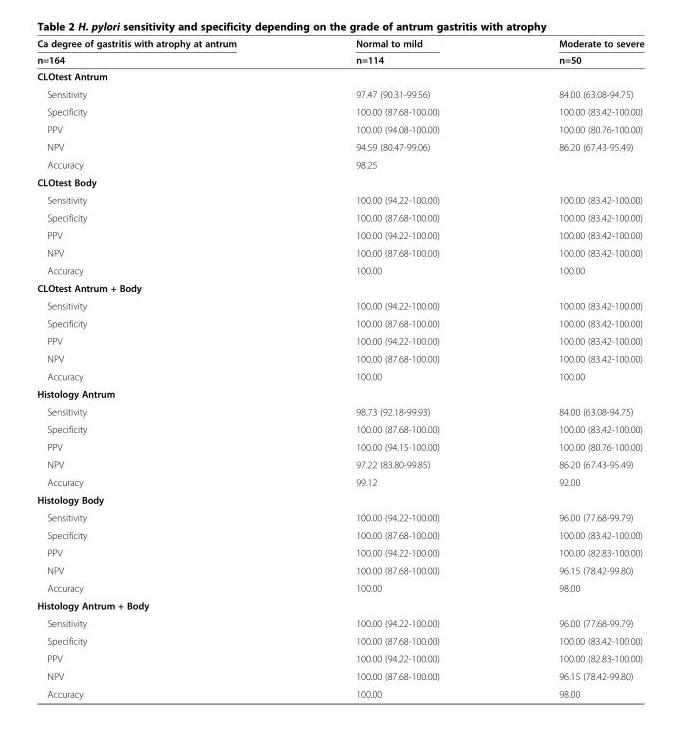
<table><thead><tr><td rowspan="2">Ca degree of gastritis with atrophy at antrum n=164</td><td rowspan="2">Normal to mild n=114</td><td rowspan="2">Moderate to severe n=50</td></tr><tr></tr></thead><tbody><tr><td colspan="3">CLOtest Antrum</td></tr><tr><td>Sensitivity</td><td>97.47 (90.31-99.56)</td><td>84.00 (63.08-94.75)</td></tr><tr><td>Specificity</td><td>100.00 (87.68-100.00)</td><td>100.00 (83.42-100.00)</td></tr><tr><td>PPV</td><td>100.00 (94.08-100.00)</td><td>100.00 (80.76-100.00)</td></tr><tr><td>NPV</td><td>94.59 (80.47-99.06)</td><td>86.20 (67.43-95.49)</td></tr><tr><td>Accuracy</td><td>98.25</td><td></td></tr><tr><td colspan="3">CLOtest Body</td></tr><tr><td>Sensitivity</td><td>100.00 (94.22-100.00)</td><td>100.00 (83.42-100.00)</td></tr><tr><td>Specificity</td><td>100.00 (87.68-100.00)</td><td>100.00 (83.42-100.00)</td></tr><tr><td>PPV</td><td>100.00 (94.22-100.00)</td><td>100.00 (83.42-100.00)</td></tr><tr><td>NPV</td><td>100.00 (87.68-100.00)</td><td>100.00 (83.42-100.00)</td></tr><tr><td>Accuracy</td><td>100.00</td><td>100.00</td></tr><tr><td colspan="3">CLOtest Antrum + Body</td></tr><tr><td>Sensitivity</td><td>100.00 (94.22-100.00)</td><td>100.00 (83.42-100.00)</td></tr><tr><td>Specificity</td><td>100.00 (87.68-100.00)</td><td>100.00 (83.42-100.00)</td></tr><tr><td>PPV</td><td>100.00 (94.22-100.00)</td><td>100.00 (83.42-100.00)</td></tr><tr><td>NPV</td><td>100.00 (87.68-100.00)</td><td>100.00 (83.42-100.00)</td></tr><tr><td>Accuracy</td><td>100.00</td><td>100.00</td></tr><tr><td colspan="3">Histology Antrum</td></tr><tr><td>Sensitivity</td><td>98.73 (92.18-99.93)</td><td>84.00 (63.08-94.75)</td></tr><tr><td>Specificity</td><td>100.00 (87.68-100.00)</td><td>100.00 (83.42-100.00)</td></tr><tr><td>PPV</td><td>100.00 (94.15-100.00)</td><td>100.00 (80.76-100.00)</td></tr><tr><td>NPV</td><td>97.22 (83.80-99.85)</td><td>86.20 (67.43-95.49)</td></tr><tr><td>Accuracy</td><td>99.12</td><td>92.00</td></tr><tr><td colspan="3">Histology Body</td></tr><tr><td>Sensitivity</td><td>100.00 (94.22-100.00)</td><td>96.00 (77.68-99.79)</td></tr><tr><td>Specificity</td><td>100.00 (87.68-100.00)</td><td>100.00 (83.42-100.00)</td></tr><tr><td>PPV</td><td>100.00 (94.22-100.00)</td><td>100.00 (82.83-100.00)</td></tr><tr><td>NPV</td><td>100.00 (87.68-100.00)</td><td>96.15 (78.42-99.80)</td></tr><tr><td>Accuracy</td><td>100.00</td><td>98.00</td></tr><tr><td colspan="3">Histology Antrum + Body</td></tr><tr><td>Sensitivity</td><td>100.00 (94.22-100.00)</td><td>96.00 (77.68-99.79)</td></tr><tr><td>Specificity</td><td>100.00 (87.68-100.00)</td><td>100.00 (83.42-100.00)</td></tr><tr><td>PPV</td><td>100.00 (94.22-100.00)</td><td>100.00 (82.83-100.00)</td></tr><tr><td>NPV</td><td>100.00 (87.68-100.00)</td><td>96.15 (78.42-99.80)</td></tr><tr><td>Accuracy</td><td>100.00</td><td>98.00</td></tr></tbody></table>